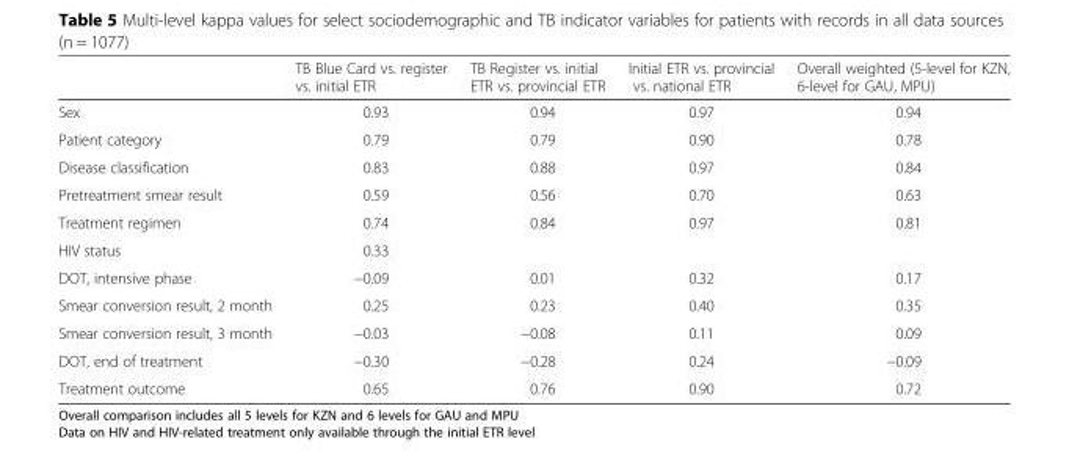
<table><thead><tr><td></td><td>TB Blue Card vs. register vs. initial ETR</td><td>TB Register vs. initial ETR vs. provincial ETR</td><td>Initial ETR vs. provincial vs. national ETR</td><td>Overall weighted (5-level for KZN, 6-level for GAU, MPU)</td></tr></thead><tbody><tr><td>Sex</td><td>0.93</td><td>0.94</td><td>0.97</td><td>0.94</td></tr><tr><td>Patient category</td><td>0.79</td><td>0.79</td><td>0.90</td><td>0.78</td></tr><tr><td>Disease classification</td><td>0.83</td><td>0.88</td><td>0.97</td><td>0.84</td></tr><tr><td>Pretreatment smear result</td><td>0.59</td><td>0.56</td><td>0.70</td><td>0.63</td></tr><tr><td>Treatment regimen</td><td>0.74</td><td>0.84</td><td>0.97</td><td>0.81</td></tr><tr><td>HIV status</td><td>0.33</td><td></td><td></td><td></td></tr><tr><td>DOT, intensive phase</td><td>−0.09</td><td>0.01</td><td>0.32</td><td>0.17</td></tr><tr><td>Smear conversion result, 2 month</td><td>0.25</td><td>0.23</td><td>0.40</td><td>0.35</td></tr><tr><td>Smear conversion result, 3 month</td><td>−0.03</td><td>−0.08</td><td>0.11</td><td>0.09</td></tr><tr><td>DOT, end of treatment</td><td>−0.30</td><td>−0.28</td><td>0.24</td><td>−0.09</td></tr><tr><td>Treatment outcome</td><td>0.65</td><td>0.76</td><td>0.90</td><td>0.72</td></tr></tbody></table>